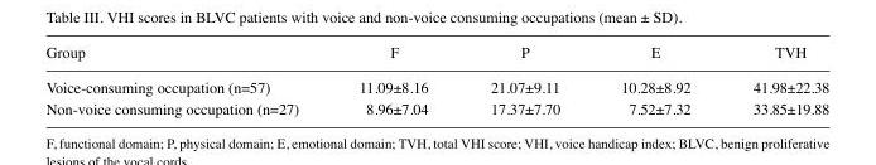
<table><thead><tr><td>Group</td><td>F</td><td>P</td><td>E</td><td>TVH</td></tr></thead><tbody><tr><td>Voice-consuming occupation (n=57)</td><td>11.09±8.16</td><td>21.07±9.11</td><td>10.28±8.92</td><td>41.98±22.38</td></tr><tr><td>Non-voice consuming occupation (n=27)</td><td>8.96±7.04</td><td>17.37±7.70</td><td>7.52±7.32</td><td>33.85±19.88</td></tr></tbody></table>